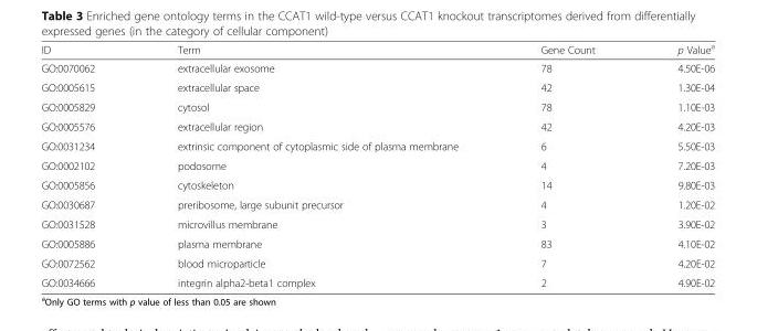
<table><thead><tr><td>ID</td><td>Term</td><td>Gene Count</td><td>p Value<sup>a</sup></td></tr></thead><tbody><tr><td>GO:0070062</td><td>extracellular exosome</td><td>78</td><td>4.50E-06</td></tr><tr><td>GO:0005615</td><td>extracellular space</td><td>42</td><td>1.30E-04</td></tr><tr><td>GO:0005829</td><td>cytosol</td><td>78</td><td>1.10E-03</td></tr><tr><td>GO:0005576</td><td>extracellular region</td><td>42</td><td>4.20E-03</td></tr><tr><td>GO:0031234</td><td>extrinsic component of cytoplasmic side of plasma membrane</td><td>6</td><td>5.50E-03</td></tr><tr><td>GO:0002102</td><td>podosome</td><td>4</td><td>7.20E-03</td></tr><tr><td>GO:0005856</td><td>cytoskeleton</td><td>14</td><td>9.80E-03</td></tr><tr><td>GO:0030687</td><td>preribosome, large subunit precursor</td><td>4</td><td>1.20E-02</td></tr><tr><td>GO:0031528</td><td>microvillus membrane</td><td>3</td><td>3.90E-02</td></tr><tr><td>GO:0005886</td><td>plasma membrane</td><td>83</td><td>4.10E-02</td></tr><tr><td>GO:0072562</td><td>blood microparticle</td><td>7</td><td>4.20E-02</td></tr><tr><td>GO:0034666</td><td>integrin alpha2-beta1 complex</td><td>2</td><td>4.90E-02</td></tr></tbody></table>